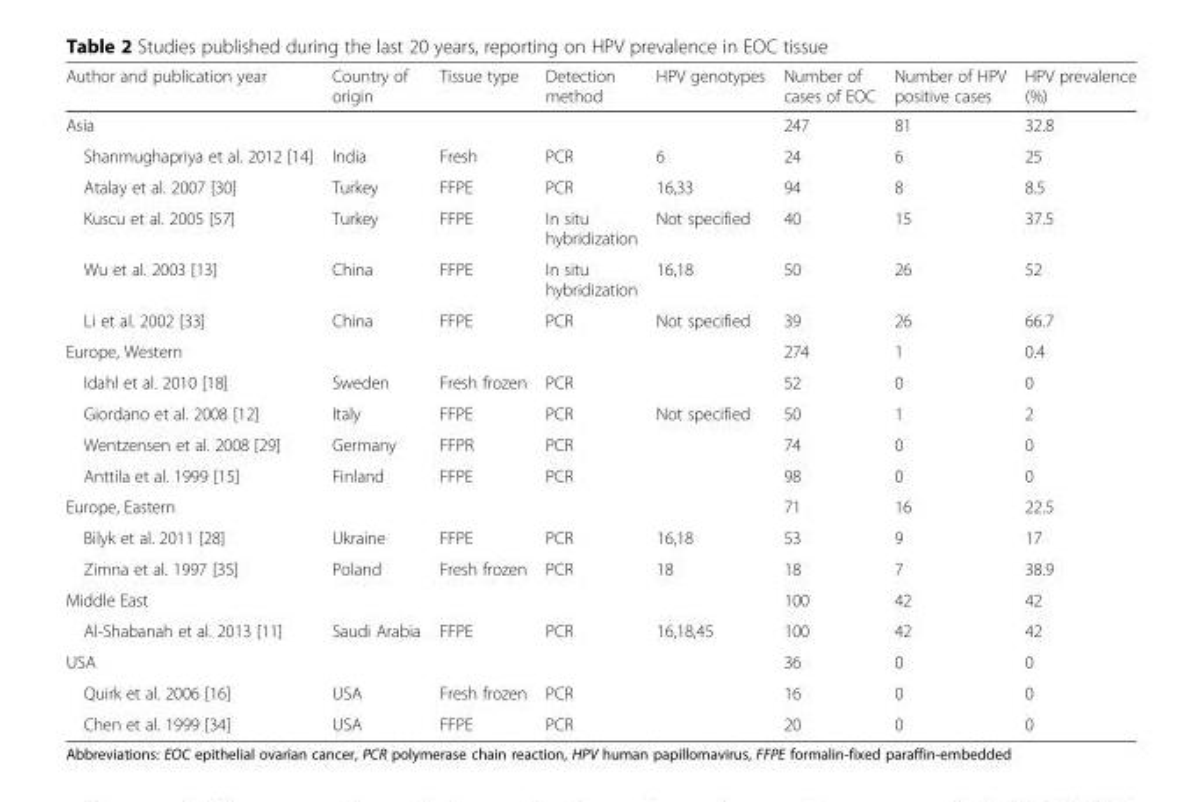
<table><thead><tr><td>Author and publication year</td><td>Country of origin</td><td>Tissue type</td><td>Detection method</td><td>HPV genotypes</td><td>Number of cases of EOC</td><td>Number of HPV positive cases</td><td>HPV prevalence (%)</td></tr></thead><tbody><tr><td colspan="5">Asia</td><td>247</td><td>81</td><td>32.8</td></tr><tr><td>Shanmughapriya et al. 2012 [14]</td><td>India</td><td>Fresh</td><td>PCR</td><td>6</td><td>24</td><td>6</td><td>25</td></tr><tr><td>Atalay et al. 2007 [30]</td><td>Turkey</td><td>FFPE</td><td>PCR</td><td>16,33</td><td>94</td><td>8</td><td>8.5</td></tr><tr><td>Kuscu et al. 2005 [57]</td><td>Turkey</td><td>FFPE</td><td>In situ hybridization</td><td>Not specified</td><td>40</td><td>15</td><td>37.5</td></tr><tr><td>Wu et al. 2003 [13]</td><td>China</td><td>FFPE</td><td>In situ hybridization</td><td>16,18</td><td>50</td><td>26</td><td>52</td></tr><tr><td>Li et al. 2002 [33]</td><td>China</td><td>FFPE</td><td>PCR</td><td>Not specified</td><td>39</td><td>26</td><td>66.7</td></tr><tr><td colspan="5">Europe, Western</td><td>274</td><td>1</td><td>0.4</td></tr><tr><td>Idahl et al. 2010 [18]</td><td>Sweden</td><td>Fresh frozen</td><td>PCR</td><td></td><td>52</td><td>0</td><td>0</td></tr><tr><td>Giordano et al. 2008 [12]</td><td>Italy</td><td>FFPE</td><td>PCR</td><td>Not specified</td><td>50</td><td>1</td><td>2</td></tr><tr><td>Wentzensen et al. 2008 [29]</td><td>Germany</td><td>FFPR</td><td>PCR</td><td></td><td>74</td><td>0</td><td>0</td></tr><tr><td>Anttila et al. 1999 [15]</td><td>Finland</td><td>FFPE</td><td>PCR</td><td></td><td>98</td><td>0</td><td>0</td></tr><tr><td colspan="5">Europe, Eastern</td><td>71</td><td>16</td><td>22.5</td></tr><tr><td>Bilyk et al. 2011 [28]</td><td>Ukraine</td><td>FFPE</td><td>PCR</td><td>16,18</td><td>53</td><td>9</td><td>17</td></tr><tr><td>Zimna et al. 1997 [35]</td><td>Poland</td><td>Fresh frozen</td><td>PCR</td><td>18</td><td>18</td><td>7</td><td>38.9</td></tr><tr><td colspan="5">Middle East</td><td>100</td><td>42</td><td>42</td></tr><tr><td>Al-Shabanah et al. 2013 [11]</td><td>Saudi Arabia</td><td>FFPE</td><td>PCR</td><td>16,18,45</td><td>100</td><td>42</td><td>42</td></tr><tr><td colspan="5">USA</td><td>36</td><td>0</td><td>0</td></tr><tr><td>Quirk et al. 2006 [16]</td><td>USA</td><td>Fresh frozen</td><td>PCR</td><td></td><td>16</td><td>0</td><td>0</td></tr><tr><td>Chen et al. 1999 [34]</td><td>USA</td><td>FFPE</td><td>PCR</td><td></td><td>20</td><td>0</td><td>0</td></tr></tbody></table>